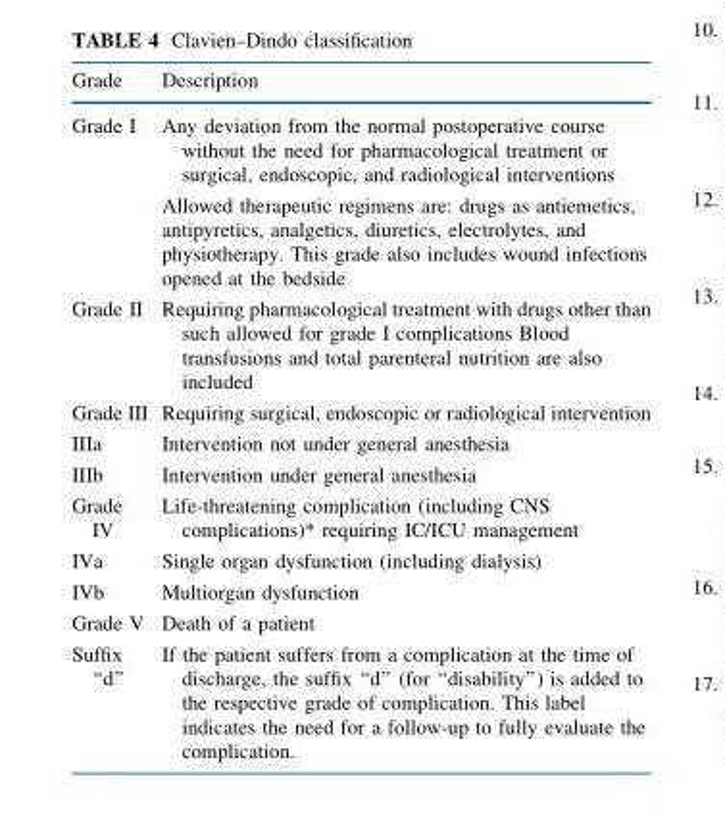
<table><thead><tr><td>Grade</td><td>Description</td></tr></thead><tbody><tr><td>Grade I</td><td>Any deviation from the normal postoperative course without the need for pharmacological treatment or surgical, endoscopic, and radiological interventions Allowed therapeutic regimens are: drugs as antiemetics, antipyretics, analgetics, diuretics, electrolytes, and physiotherapy. This grade also includes wound infections opened at the bedside</td></tr><tr><td>Grade II</td><td>Requiring pharmacological treatment with drugs other than such allowed for grade I complications Blood transfusions and total parenteral nutrition are also included</td></tr><tr><td>Grade III IIIa IIIb</td><td>Requiring surgical, endoscopic or radiological intervention Intervention not under general anesthesia Intervention under general anesthesia</td></tr><tr><td>Grade IV IVa IVb</td><td>Life-threatening complication (including CNS complications)* requiring IC/ICU management Single organ dysfunction (including dialysis) Multiorgan dysfunction</td></tr><tr><td>Grade V</td><td>Death of a patient</td></tr><tr><td>Suffix ‘‘d’’</td><td>If the patient suffers from a complication at the time of discharge, the suffix ‘‘d’’ (for ‘‘disability’’) is added to the respective grade of complication. This label indicates the need for a follow-up to fully evaluate the complication.</td></tr></tbody></table>